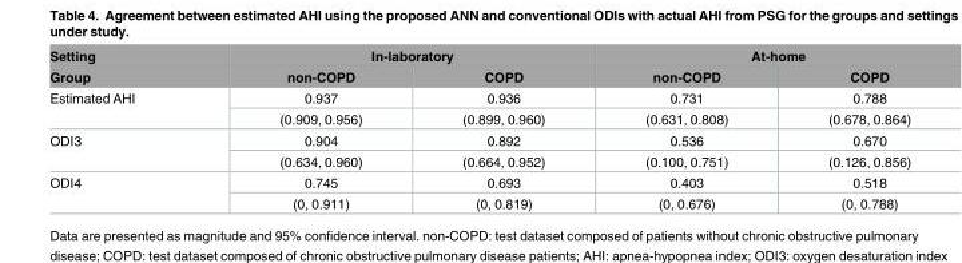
<table><thead><tr><td rowspan="2">Setting Group</td><td colspan="2">In-laboratory</td><td colspan="2">At-home</td></tr><tr><td>non-COPD</td><td>COPD</td><td>non-COPD</td><td>COPD</td></tr></thead><tbody><tr><td rowspan="2">Estimated AHI</td><td>0.937</td><td>0.936</td><td>0.731</td><td>0.788</td></tr><tr><td>(0.909, 0.956)</td><td>(0.899, 0.960)</td><td>(0.631, 0.808)</td><td>(0.678, 0.864)</td></tr><tr><td rowspan="2">ODI3</td><td>0.904</td><td>0.892</td><td>0.536</td><td>0.670</td></tr><tr><td>(0.634, 0.960)</td><td>(0.664, 0.952)</td><td>(0.100, 0.751)</td><td>(0.126, 0.856)</td></tr><tr><td rowspan="2">ODI4</td><td>0.745</td><td>0.693</td><td>0.403</td><td>0.518</td></tr><tr><td>(0, 0.911)</td><td>(0, 0.819)</td><td>(0, 0.676)</td><td>(0, 0.788)</td></tr></tbody></table>